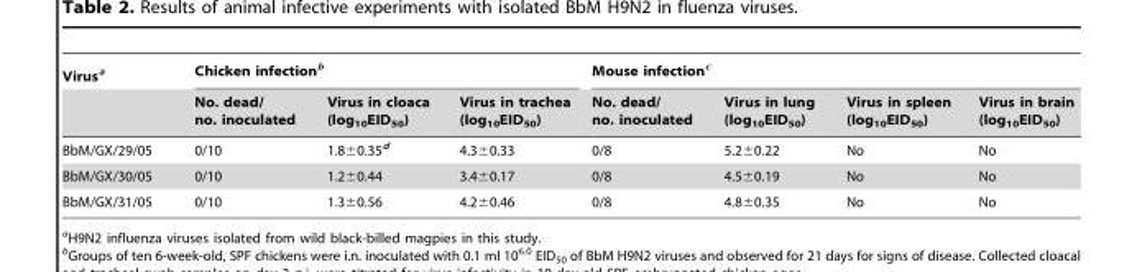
<table><thead><tr><td rowspan="2">Virus<sup>a</sup></td><td colspan="3">Chicken infection<sup>b</sup></td><td colspan="4">Mouse infection<sup>c</sup></td></tr><tr><td>No. dead/ no. inoculated</td><td>Virus in cloaca (log<sub>10</sub>EID<sub>50</sub>)</td><td>Virus in trachea (log<sub>10</sub>EID<sub>50</sub>)</td><td>No. dead/ no. inoculated</td><td>Virus in lung (log<sub>10</sub>EID<sub>50</sub>)</td><td>Virus in spleen (log<sub>10</sub>EID<sub>50</sub>)</td><td>Virus in brain (log<sub>10</sub>EID<sub>50</sub>)</td></tr></thead><tbody><tr><td>BbM/GX/29/05</td><td>0/10</td><td>1.8±0.35<sup>d</sup></td><td>4.3±0.33</td><td>0/8</td><td>5.2±0.22</td><td>No</td><td>No</td></tr><tr><td>BbM/GX/30/05</td><td>0/10</td><td>1.2±0.44</td><td>3.4±0.17</td><td>0/8</td><td>4.5±0.19</td><td>No</td><td>No</td></tr><tr><td>BbM/GX/31/05</td><td>0/10</td><td>1.3±0.56</td><td>4.2±0.46</td><td>0/8</td><td>4.8±0.35</td><td>No</td><td>No</td></tr></tbody></table>